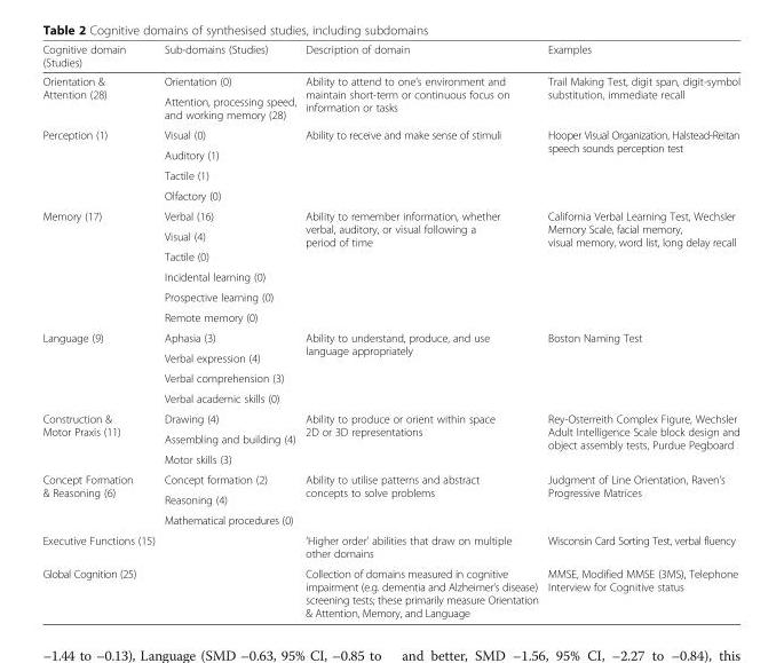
<table><thead><tr><td>Cognitive domain (Studies)</td><td>Sub-domains (Studies)</td><td>Description of domain</td><td>Examples</td></tr></thead><tbody><tr><td rowspan="2">Orientation &amp; Attention (28)</td><td>Orientation (0)</td><td rowspan="2">Ability to attend to one’s environment and maintain short-term or continuous focus on information or tasks</td><td rowspan="2">Trail Making Test, digit span, digit-symbol substitution, immediate recall</td></tr><tr><td>Attention, processing speed, and working memory (28)</td></tr><tr><td rowspan="4">Perception (1)</td><td>Visual (0)</td><td rowspan="4">Ability to receive and make sense of stimuli</td><td rowspan="4">Hooper Visual Organization, Halstead-Reitan speech sounds perception test</td></tr><tr><td>Auditory (1)</td></tr><tr><td>Tactile (1)</td></tr><tr><td>Olfactory (0)</td></tr><tr><td rowspan="6">Memory (17)</td><td>Verbal (16)</td><td rowspan="6">Ability to remember information, whether verbal, auditory, or visual following a period of time</td><td rowspan="6">California Verbal Learning Test, Wechsler Memory Scale, facial memory, visual memory, word list, long delay recall</td></tr><tr><td>Visual (4)</td></tr><tr><td>Tactile (0)</td></tr><tr><td>Incidental learning (0)</td></tr><tr><td>Prospective learning (0)</td></tr><tr><td>Remote memory (0)</td></tr><tr><td rowspan="4">Language (9)</td><td>Aphasia (3)</td><td rowspan="4">Ability to understand, produce, and use language appropriately</td><td rowspan="4">Boston Naming Test</td></tr><tr><td>Verbal expression (4)</td></tr><tr><td>Verbal comprehension (3)</td></tr><tr><td>Verbal academic skills (0)</td></tr><tr><td rowspan="3">Construction &amp; Motor Praxis (11)</td><td>Drawing (4)</td><td rowspan="3">Ability to produce or orient within space 2D or 3D representations</td><td rowspan="3">Rey-Osterreith Complex Figure, Wechsler Adult Intelligence Scale block design and object assembly tests, Purdue Pegboard</td></tr><tr><td>Assembling and building (4)</td></tr><tr><td>Motor skills (3)</td></tr><tr><td rowspan="3">Concept Formation &amp; Reasoning (6)</td><td>Concept formation (2)</td><td rowspan="3">Ability to utilise patterns and abstract concepts to solve problems</td><td rowspan="3">Judgment of Line Orientation, Raven’s Progressive Matrices</td></tr><tr><td>Reasoning (4)</td></tr><tr><td>Mathematical procedures (0)</td></tr><tr><td>Executive Functions (15)</td><td></td><td>‘Higher order’ abilities that draw on multiple other domains</td><td>Wisconsin Card Sorting Test, verbal fluency</td></tr><tr><td>Global Cognition (25)</td><td></td><td>Collection of domains measured in cognitive impairment (e.g. dementia and Alzheimer’s disease) screening tests; these primarily measure Orientation &amp; Attention, Memory, and Language</td><td>MMSE, Modified MMSE (3MS), Telephone Interview for Cognitive status</td></tr></tbody></table>